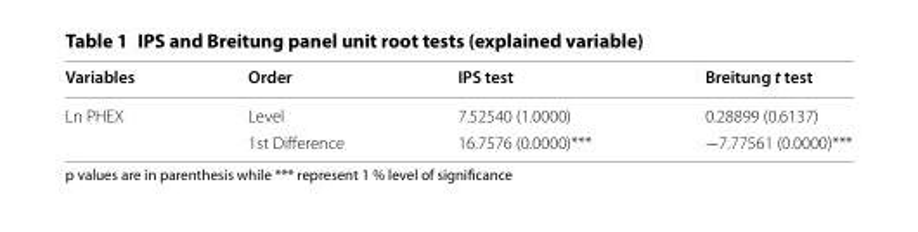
<table><thead><tr><td>Variables</td><td>Order</td><td>IPS test</td><td>Breitung t test</td></tr></thead><tbody><tr><td rowspan="2">Ln PHEX</td><td>Level</td><td>7.52540 (1.0000)</td><td>0.28899 (0.6137)</td></tr><tr><td>1st Difference</td><td>16.7576 (0.0000)***</td><td>−7.77561 (0.0000)***</td></tr></tbody></table>